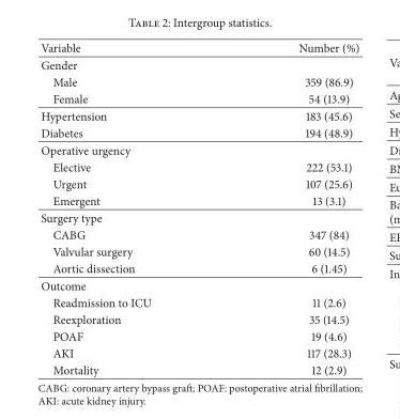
<table><thead><tr><td>Variable</td><td>Number (%)</td></tr></thead><tbody><tr><td colspan="2">Gender</td></tr><tr><td>Male</td><td>359 (86.9)</td></tr><tr><td>Female</td><td>54 (13.9)</td></tr><tr><td>Hypertension</td><td>183 (45.6)</td></tr><tr><td>Diabetes</td><td>194 (48.9)</td></tr><tr><td colspan="2">Operative urgency</td></tr><tr><td>Elective</td><td>222 (53.1)</td></tr><tr><td>Urgent</td><td>107 (25.6)</td></tr><tr><td>Emergent</td><td>13 (3.1)</td></tr><tr><td colspan="2">Surgery type</td></tr><tr><td>CABG</td><td>347 (84)</td></tr><tr><td>Valvular surgery</td><td>60 (14.5)</td></tr><tr><td>Aortic dissection</td><td>6 (1.45)</td></tr><tr><td colspan="2">Outcome</td></tr><tr><td>Readmission to ICU</td><td>11 (2.6)</td></tr><tr><td>Reexploration</td><td>35 (14.5)</td></tr><tr><td>POAF</td><td>19 (4.6)</td></tr><tr><td>AKI</td><td>117 (28.3)</td></tr><tr><td>Mortality</td><td>12 (2.9)</td></tr></tbody></table>